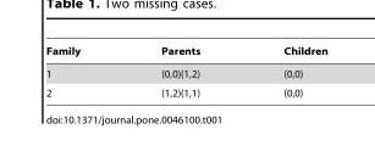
<table><thead><tr><td>Family</td><td>Parents</td><td>Children</td></tr></thead><tbody><tr><td>1</td><td>(0,0)(1,2)</td><td>(0,0)</td></tr><tr><td>2</td><td>(1,2)(1,1)</td><td>(0,0)</td></tr></tbody></table>